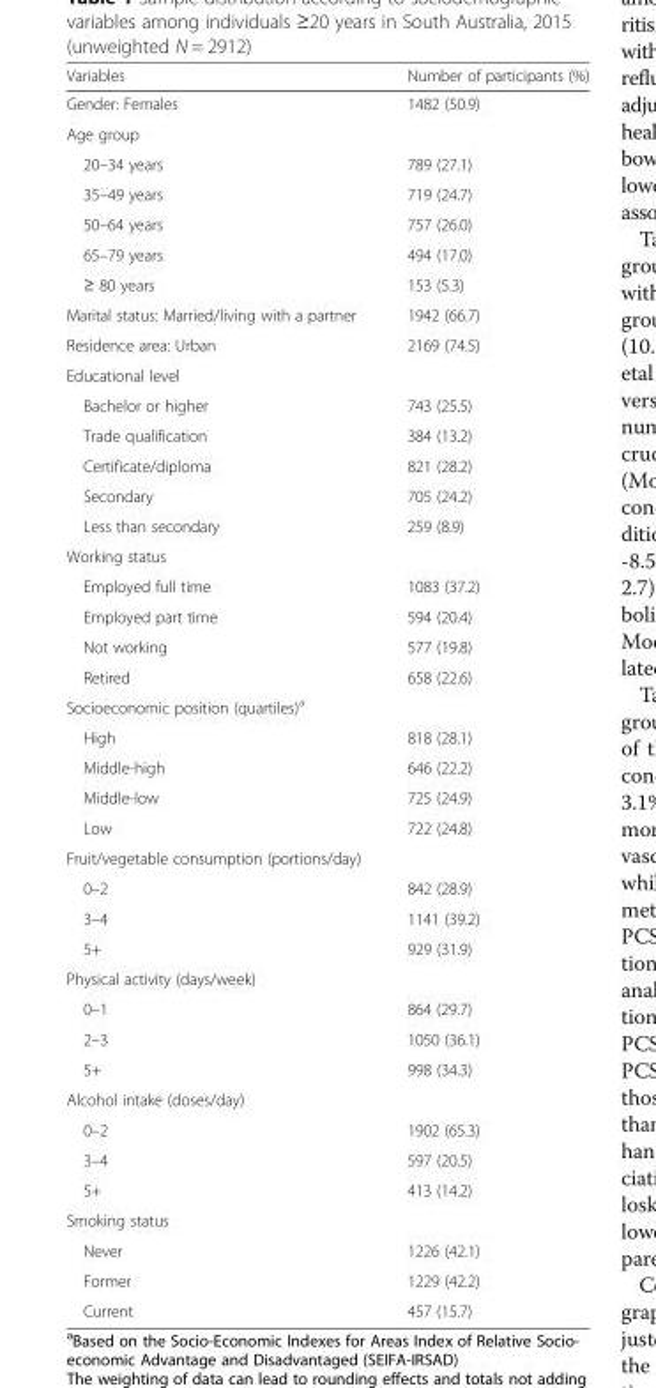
<table><thead><tr><td>Variables</td><td>Number of participants (%)</td></tr></thead><tbody><tr><td>Gender: Females</td><td>1482 (50.9)</td></tr><tr><td colspan="2">Age group</td></tr><tr><td>20–34 years</td><td>789 (27.1)</td></tr><tr><td>35–49 years</td><td>719 (24.7)</td></tr><tr><td>50–64 years</td><td>757 (26.0)</td></tr><tr><td>65–79 years</td><td>494 (17.0)</td></tr><tr><td>≥ 80 years</td><td>153 (5.3)</td></tr><tr><td>Marital status: Married/living with a partner</td><td>1942 (66.7)</td></tr><tr><td>Residence area: Urban</td><td>2169 (74.5)</td></tr><tr><td colspan="2">Educational level</td></tr><tr><td>Bachelor or higher</td><td>743 (25.5)</td></tr><tr><td>Trade qualification</td><td>384 (13.2)</td></tr><tr><td>Certificate/diploma</td><td>821 (28.2)</td></tr><tr><td>Secondary</td><td>705 (24.2)</td></tr><tr><td>Less than secondary</td><td>259 (8.9)</td></tr><tr><td colspan="2">Working status</td></tr><tr><td>Employed full time</td><td>1083 (37.2)</td></tr><tr><td>Employed part time</td><td>594 (20.4)</td></tr><tr><td>Not working</td><td>577 (19.8)</td></tr><tr><td>Retired</td><td>658 (22.6)</td></tr><tr><td colspan="2">Socioeconomic position (quartiles)<sup>a</sup></td></tr><tr><td>High</td><td>818 (28.1)</td></tr><tr><td>Middle-high</td><td>646 (22.2)</td></tr><tr><td>Middle-low</td><td>725 (24.9)</td></tr><tr><td>Low</td><td>722 (24.8)</td></tr><tr><td colspan="2">Fruit/vegetable consumption (portions/day)</td></tr><tr><td>0–2</td><td>842 (28.9)</td></tr><tr><td>3–4</td><td>1141 (39.2)</td></tr><tr><td>5+</td><td>929 (31.9)</td></tr><tr><td colspan="2">Physical activity (days/week)</td></tr><tr><td>0–1</td><td>864 (29.7)</td></tr><tr><td>2–3</td><td>1050 (36.1)</td></tr><tr><td>5+</td><td>998 (34.3)</td></tr><tr><td colspan="2">Alcohol intake (doses/day)</td></tr><tr><td>0–2</td><td>1902 (65.3)</td></tr><tr><td>3–4</td><td>597 (20.5)</td></tr><tr><td>5+</td><td>413 (14.2)</td></tr><tr><td colspan="2">Smoking status</td></tr><tr><td>Never</td><td>1226 (42.1)</td></tr><tr><td>Former</td><td>1229 (42.2)</td></tr><tr><td>Current</td><td>457 (15.7)</td></tr></tbody></table>